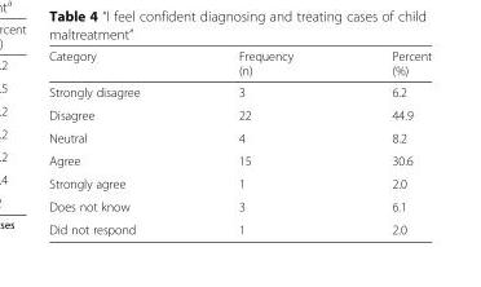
<table><thead><tr><td>Category</td><td>Frequency (n)</td><td>Percent (%)</td></tr></thead><tbody><tr><td>Strongly disagree</td><td>3</td><td>6.2</td></tr><tr><td>Disagree</td><td>22</td><td>44.9</td></tr><tr><td>Neutral</td><td>4</td><td>8.2</td></tr><tr><td>Agree</td><td>15</td><td>30.6</td></tr><tr><td>Strongly agree</td><td>1</td><td>2.0</td></tr><tr><td>Does not know</td><td>3</td><td>6.1</td></tr><tr><td>Did not respond</td><td>1</td><td>2.0</td></tr></tbody></table>